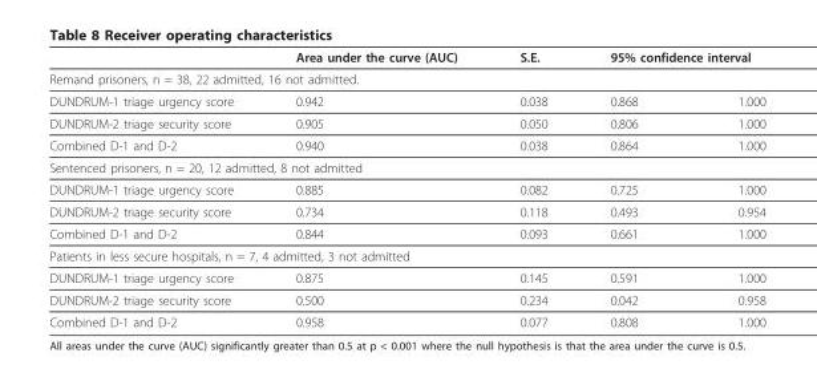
<table><thead><tr><td></td><td>Area under the curve (AUC)</td><td>S.E.</td><td colspan="2">95% confidence interval</td></tr><tr><td colspan="5">Remand prisoners, n = 38, 22 admitted, 16 not admitted.</td></tr><tr><td>DUNDRUM-1 triage urgency score</td><td>0.942</td><td>0.038</td><td>0.868</td><td>1.000</td></tr></thead><tbody><tr><td>DUNDRUM-2 triage security score</td><td>0.905</td><td>0.050</td><td>0.806</td><td>1.000</td></tr><tr><td>Combined D-1 and D-2</td><td>0.940</td><td>0.038</td><td>0.864</td><td>1.000</td></tr><tr><td colspan="5">Sentenced prisoners, n = 20, 12 admitted, 8 not admitted</td></tr><tr><td>DUNDRUM-1 triage urgency score</td><td>0.885</td><td>0.082</td><td>0.725</td><td>1.000</td></tr><tr><td>DUNDRUM-2 triage security score</td><td>0.734</td><td>0.118</td><td>0.493</td><td>0.954</td></tr><tr><td>Combined D-1 and D-2</td><td>0.844</td><td>0.093</td><td>0.661</td><td>1.000</td></tr><tr><td colspan="5">Patients in less secure hospitals, n = 7, 4 admitted, 3 not admitted</td></tr><tr><td>DUNDRUM-1 triage urgency score</td><td>0.875</td><td>0.145</td><td>0.591</td><td>1.000</td></tr><tr><td>DUNDRUM-2 triage security score</td><td>0.500</td><td>0.234</td><td>0.042</td><td>0.958</td></tr><tr><td>Combined D-1 and D-2</td><td>0.958</td><td>0.077</td><td>0.808</td><td>1.000</td></tr></tbody></table>